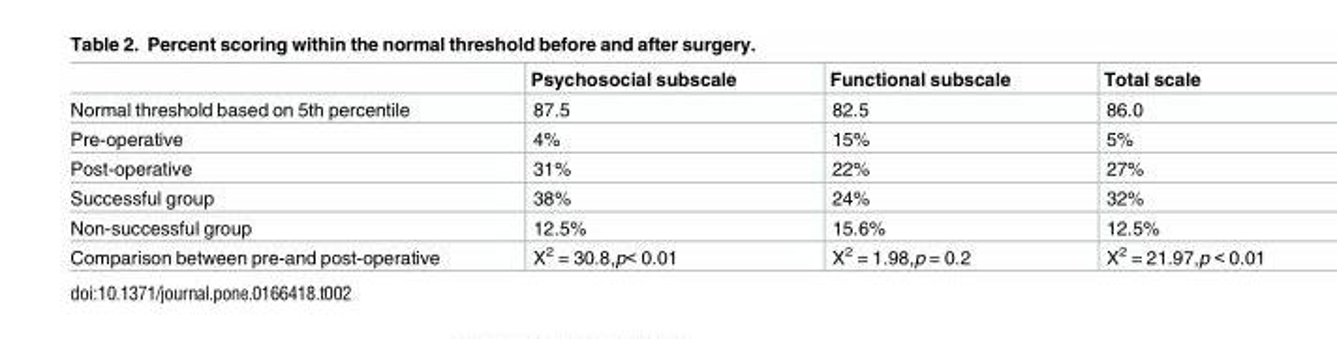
<table><thead><tr><td></td><td>Psychosocial subscale</td><td>Functional subscale</td><td>Total scale</td></tr></thead><tbody><tr><td>Normal threshold based on 5th percentile</td><td>87.5</td><td>82.5</td><td>86.0</td></tr><tr><td>Pre-operative</td><td>4%</td><td>15%</td><td>5%</td></tr><tr><td>Post-operative</td><td>31%</td><td>22%</td><td>27%</td></tr><tr><td>Successful group</td><td>38%</td><td>24%</td><td>32%</td></tr><tr><td>Non-successful group</td><td>12.5%</td><td>15.6%</td><td>12.5%</td></tr><tr><td>Comparison between pre-and post-operative</td><td>X<sup>2</sup> = 30.8,p&lt; 0.01</td><td>X<sup>2</sup> = 1.98,p = 0.2</td><td>X<sup>2</sup> = 21.97,p &lt; 0.01</td></tr></tbody></table>